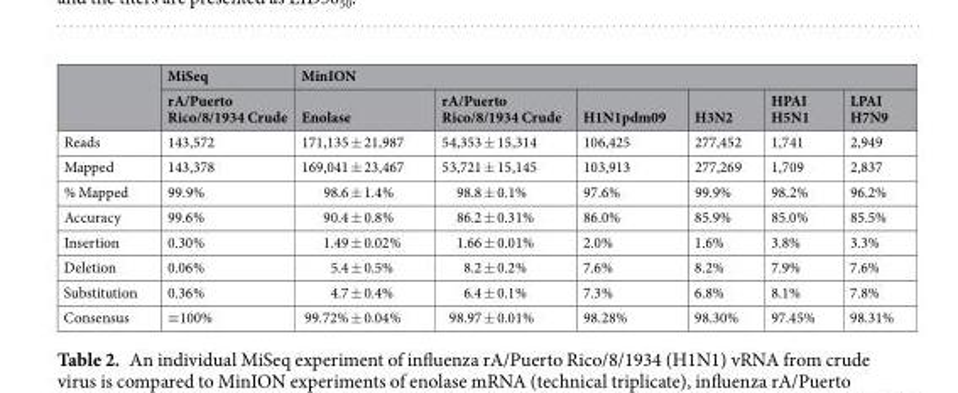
<table><thead><tr><td rowspan="2"></td><td rowspan="2">MiSeq rA/Puerto Rico/8/1934 Crude</td><td colspan="6">MinION</td></tr><tr><td>Enolase</td><td>rA/Puerto Rico/8/1934 Crude</td><td>H1N1pdm09</td><td>H3N2</td><td>HPAI H5N1</td><td>LPAI H7N9</td></tr></thead><tbody><tr><td>Reads</td><td>143,572</td><td>171,135 ± 21,987</td><td>54,353 ± 15,314</td><td>106,425</td><td>277,452</td><td>1,741</td><td>2,949</td></tr><tr><td>Mapped</td><td>143,378</td><td>169,041 ± 23,467</td><td>53,721 ± 15,145</td><td>103,913</td><td>277,269</td><td>1,709</td><td>2,837</td></tr><tr><td>% Mapped</td><td>99.9%</td><td>98.6 ± 1.4%</td><td>98.8 ± 0.1%</td><td>97.6%</td><td>99.9%</td><td>98.2%</td><td>96.2%</td></tr><tr><td>Accuracy</td><td>99.6%</td><td>90.4 ± 0.8%</td><td>86.2 ± 0.31%</td><td>86.0%</td><td>85.9%</td><td>85.0%</td><td>85.5%</td></tr><tr><td>Insertion</td><td>0.30%</td><td>1.49 ± 0.02%</td><td>1.66 ± 0.01%</td><td>2.0%</td><td>1.6%</td><td>3.8%</td><td>3.3%</td></tr><tr><td>Deletion</td><td>0.06%</td><td>5.4 ± 0.5%</td><td>8.2 ± 0.2%</td><td>7.6%</td><td>8.2%</td><td>7.9%</td><td>7.6%</td></tr><tr><td>Substitution</td><td>0.36%</td><td>4.7 ± 0.4%</td><td>6.4 ± 0.1%</td><td>7.3%</td><td>6.8%</td><td>8.1%</td><td>7.8%</td></tr><tr><td>Consensus</td><td>≡100%</td><td>99.72% ± 0.04%</td><td>98.97 ± 0.01%</td><td>98.28%</td><td>98.30%</td><td>97.45%</td><td>98.31%</td></tr></tbody></table>